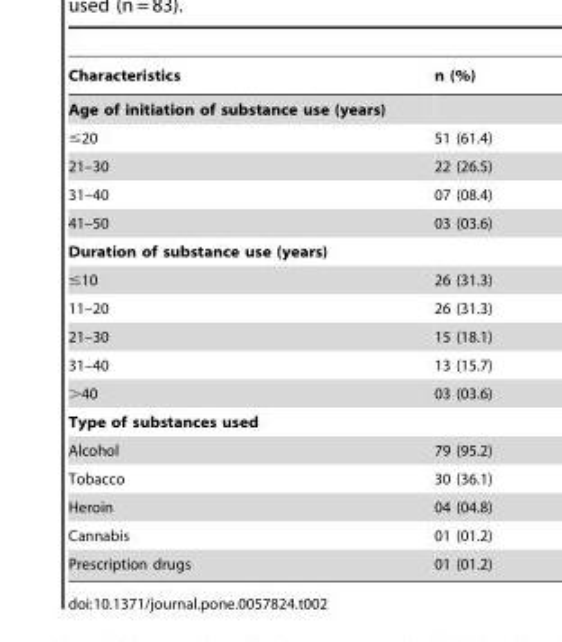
<table><thead><tr><td>Characteristics</td><td>n (%)</td></tr></thead><tbody><tr><td colspan="2">Age of initiation of substance use (years)</td></tr><tr><td>≤20</td><td>51 (61.4)</td></tr><tr><td>21–30</td><td>22 (26.5)</td></tr><tr><td>31–40</td><td>07 (08.4)</td></tr><tr><td>41–50</td><td>03 (03.6)</td></tr><tr><td colspan="2">Duration of substance use (years)</td></tr><tr><td>≤10</td><td>26 (31.3)</td></tr><tr><td>11–20</td><td>26 (31.3)</td></tr><tr><td>21–30</td><td>15 (18.1)</td></tr><tr><td>31–40</td><td>13 (15.7)</td></tr><tr><td>&gt;40</td><td>03 (03.6)</td></tr><tr><td colspan="2">Type of substances used</td></tr><tr><td>Alcohol</td><td>79 (95.2)</td></tr><tr><td>Tobacco</td><td>30 (36.1)</td></tr><tr><td>Heroin</td><td>04 (04.8)</td></tr><tr><td>Cannabis</td><td>01 (01.2)</td></tr><tr><td>Prescription drugs</td><td>01 (01.2)</td></tr></tbody></table>